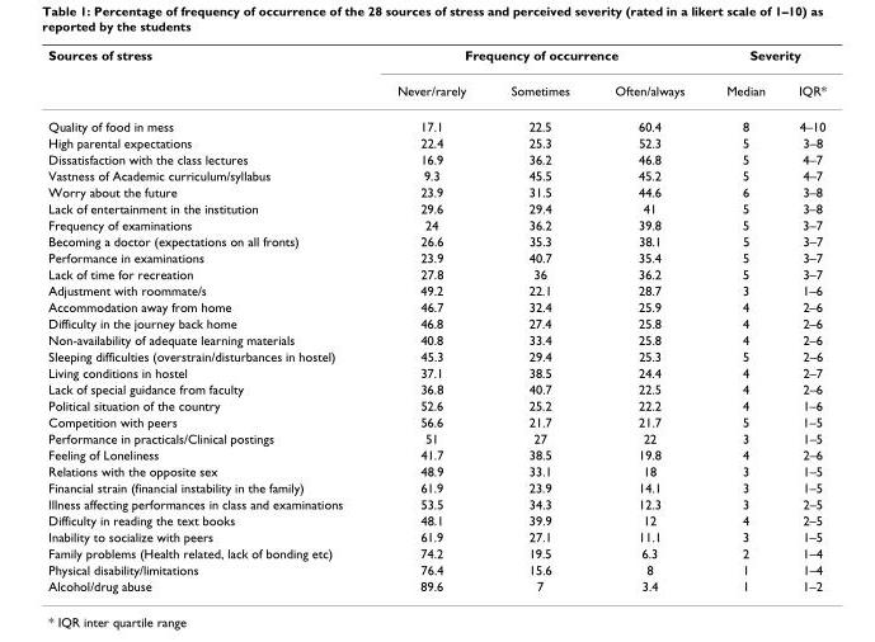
<table><thead><tr><td rowspan="2">Sources of stress</td><td colspan="3">Frequency of occurrence</td><td colspan="2">Severity</td></tr><tr><td>Never/rarely</td><td>Sometimes</td><td>Often/always</td><td>Median</td><td>IQR*</td></tr></thead><tbody><tr><td>Quality of food in mess</td><td>17.1</td><td>22.5</td><td>60.4</td><td>8</td><td>4–10</td></tr><tr><td>High parental expectations</td><td>22.4</td><td>25.3</td><td>52.3</td><td>5</td><td>3–8</td></tr><tr><td>Dissatisfaction with the class lectures</td><td>16.9</td><td>36.2</td><td>46.8</td><td>5</td><td>4–7</td></tr><tr><td>Vastness of Academic curriculum/syllabus</td><td>9.3</td><td>45.5</td><td>45.2</td><td>5</td><td>4–7</td></tr><tr><td>Worry about the future</td><td>23.9</td><td>31.5</td><td>44.6</td><td>6</td><td>3–8</td></tr><tr><td>Lack of entertainment in the institution</td><td>29.6</td><td>29.4</td><td>41</td><td>5</td><td>3–8</td></tr><tr><td>Frequency of examinations</td><td>24</td><td>36.2</td><td>39.8</td><td>5</td><td>3–7</td></tr><tr><td>Becoming a doctor (expectations on all fronts)</td><td>26.6</td><td>35.3</td><td>38.1</td><td>5</td><td>3–7</td></tr><tr><td>Performance in examinations</td><td>23.9</td><td>40.7</td><td>35.4</td><td>5</td><td>3–7</td></tr><tr><td>Lack of time for recreation</td><td>27.8</td><td>36</td><td>36.2</td><td>5</td><td>3–7</td></tr><tr><td>Adjustment with roommate/s</td><td>49.2</td><td>22.1</td><td>28.7</td><td>3</td><td>1–6</td></tr><tr><td>Accommodation away from home</td><td>46.7</td><td>32.4</td><td>25.9</td><td>4</td><td>2–6</td></tr><tr><td>Difficulty in the journey back home</td><td>46.8</td><td>27.4</td><td>25.8</td><td>4</td><td>2–6</td></tr><tr><td>Non-availability of adequate learning materials</td><td>40.8</td><td>33.4</td><td>25.8</td><td>4</td><td>2–6</td></tr><tr><td>Sleeping difficulties (overstrain/disturbances in hostel)</td><td>45.3</td><td>29.4</td><td>25.3</td><td>5</td><td>2–6</td></tr><tr><td>Living conditions in hostel</td><td>37.1</td><td>38.5</td><td>24.4</td><td>4</td><td>2–7</td></tr><tr><td>Lack of special guidance from faculty</td><td>36.8</td><td>40.7</td><td>22.5</td><td>4</td><td>2–6</td></tr><tr><td>Political situation of the country</td><td>52.6</td><td>25.2</td><td>22.2</td><td>4</td><td>1–6</td></tr><tr><td>Competition with peers</td><td>56.6</td><td>21.7</td><td>21.7</td><td>5</td><td>1–5</td></tr><tr><td>Performance in practicals/Clinical postings</td><td>51</td><td>27</td><td>22</td><td>3</td><td>1–5</td></tr><tr><td>Feeling of Loneliness</td><td>41.7</td><td>38.5</td><td>19.8</td><td>4</td><td>2–6</td></tr><tr><td>Relations with the opposite sex</td><td>48.9</td><td>33.1</td><td>18</td><td>3</td><td>1–5</td></tr><tr><td>Financial strain (financial instability in the family)</td><td>61.9</td><td>23.9</td><td>14.1</td><td>3</td><td>1–5</td></tr><tr><td>lllness affecting performances in class and examinations</td><td>53.5</td><td>34.3</td><td>12.3</td><td>3</td><td>2–5</td></tr><tr><td>Difficulty in reading the text books</td><td>48.1</td><td>39.9</td><td>12</td><td>4</td><td>2–5</td></tr><tr><td>Inability to socialize with peers</td><td>61.9</td><td>27.1</td><td>11.1</td><td>3</td><td>1–5</td></tr><tr><td>Family problems (Health related, lack of bonding etc)</td><td>74.2</td><td>19.5</td><td>6.3</td><td>2</td><td>1–4</td></tr><tr><td>Physical disability/limitations</td><td>76.4</td><td>15.6</td><td>8</td><td>1</td><td>1–4</td></tr><tr><td>Alcohol/drug abuse</td><td>89.6</td><td>7</td><td>3.4</td><td>1</td><td>1–2</td></tr></tbody></table>